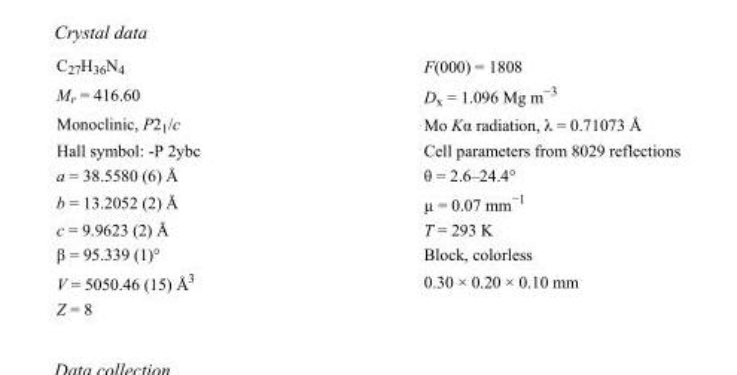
<table><tbody><tr><td>C<sub>27</sub>H<sub>36</sub>N<sub>4</sub></td><td>F(000) = 1808</td></tr><tr><td>M<sub>r</sub> = 416.60</td><td>D<sub>x</sub> = 1.096 Mg m<sup>−3</sup></td></tr><tr><td>Monoclinic, P2<sub>1</sub>/c</td><td>Mo Kα radiation, λ = 0.71073 Å</td></tr><tr><td>Hall symbol: -P 2ybc</td><td>Cell parameters from 8029 reflections</td></tr><tr><td>a = 38.5580 (6) Å</td><td>θ = 2.6–24.4°</td></tr><tr><td>b = 13.2052 (2) Å</td><td>µ = 0.07 mm<sup>−1</sup></td></tr><tr><td>c = 9.9623 (2) Å</td><td>T = 293 K</td></tr><tr><td>β = 95.339 (1)°</td><td>Block, colorless</td></tr><tr><td>V = 5050.46 (15) Å<sup>3</sup></td><td>0.30 × 0.20 × 0.10 mm</td></tr><tr><td>Z = 8</td><td></td></tr></tbody></table>